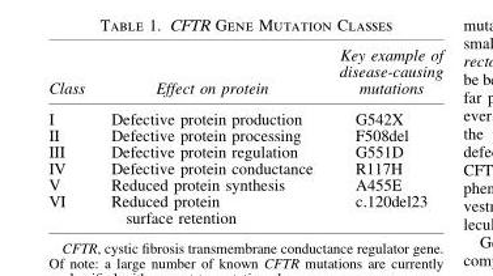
<table><thead><tr><td>Class</td><td>Effect on protein</td><td>Key example of disease-causing mutations</td></tr></thead><tbody><tr><td>I</td><td>Defective protein production</td><td>G542X</td></tr><tr><td>II</td><td>Defective protein processing</td><td>F508del</td></tr><tr><td>III</td><td>Defective protein regulation</td><td>G551D</td></tr><tr><td>IV</td><td>Defective protein conductance</td><td>R117H</td></tr><tr><td>V</td><td>Reduced protein synthesis</td><td>A455E</td></tr><tr><td>VI</td><td>Reduced protein surface retention</td><td>c.120del23</td></tr></tbody></table>